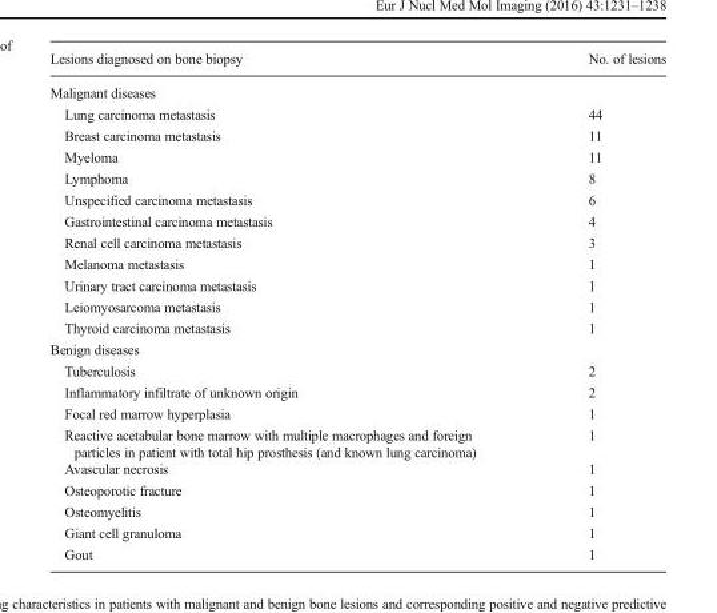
<table><thead><tr><td>Lesions diagnosed on bone biopsy</td><td>No. of lesions</td></tr></thead><tbody><tr><td colspan="2">Malignant diseases</td></tr><tr><td>Lung carcinoma metastasis</td><td>44</td></tr><tr><td>Breast carcinoma metastasis</td><td>11</td></tr><tr><td>Myeloma</td><td>11</td></tr><tr><td>Lymphoma</td><td>8</td></tr><tr><td>Unspecified carcinoma metastasis</td><td>6</td></tr><tr><td>Gastrointestinal carcinoma metastasis</td><td>4</td></tr><tr><td>Renal cell carcinoma metastasis</td><td>3</td></tr><tr><td>Melanoma metastasis</td><td>1</td></tr><tr><td>Urinary tract carcinoma metastasis</td><td>1</td></tr><tr><td>Leiomyosarcoma metastasis</td><td>1</td></tr><tr><td>Thyroid carcinoma metastasis</td><td>1</td></tr><tr><td colspan="2">Benign diseases</td></tr><tr><td>Tuberculosis</td><td>2</td></tr><tr><td>Inflammatory infiltrate of unknown origin</td><td>2</td></tr><tr><td>Focal red marrow hyperplasia</td><td>1</td></tr><tr><td>Reactive acetabular bone marrow with multiple macrophages and foreign particles in patient with total hip prosthesis (and known lung carcinoma)</td><td>1</td></tr><tr><td>Avascular necrosis</td><td>1</td></tr><tr><td>Osteoporotic fracture</td><td>1</td></tr><tr><td>Osteomyelitis</td><td>1</td></tr><tr><td>Giant cell granuloma</td><td>1</td></tr><tr><td>Gout</td><td>1</td></tr></tbody></table>